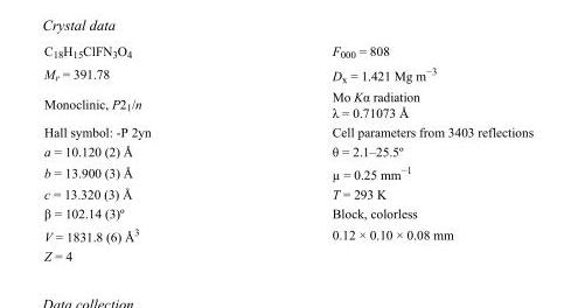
<table><tbody><tr><td>C<sub>18</sub>H<sub>15</sub>ClFN<sub>3</sub>O<sub>4</sub></td><td>F000 = 808</td></tr><tr><td>M<sub>r</sub> = 391.78</td><td>D<sub>x</sub> = 1.421 Mg m<sup>−3</sup></td></tr><tr><td>Monoclinic, P2<sub>1</sub>/n</td><td>Mo Kα radiation λ = 0.71073 Å</td></tr><tr><td>Hall symbol: -P 2yn</td><td>Cell parameters from 3403 reflections</td></tr><tr><td>a = 10.120 (2) Å</td><td>θ = 2.1–25.5º</td></tr><tr><td>b = 13.900 (3) Å</td><td>µ = 0.25 mm<sup>−1</sup></td></tr><tr><td>c = 13.320 (3) Å</td><td>T = 293 K</td></tr><tr><td>β = 102.14 (3)º</td><td>Block, colorless</td></tr><tr><td>V = 1831.8 (6) Å<sup>3</sup></td><td>0.12 × 0.10 × 0.08 mm</td></tr><tr><td>Z = 4</td><td></td></tr></tbody></table>